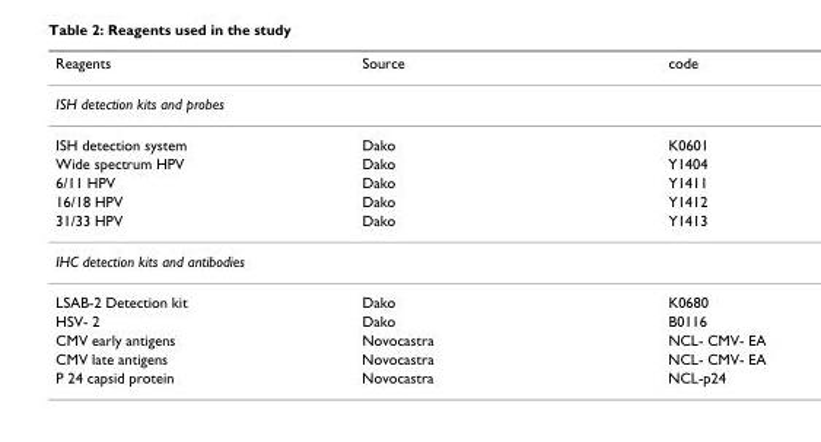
<table><thead><tr><td>Reagents</td><td>Source</td><td>code</td></tr></thead><tbody><tr><td colspan="3">ISH detection kits and probes</td></tr><tr><td>ISH detection system</td><td>Dako</td><td>K0601</td></tr><tr><td>Wide spectrum HPV</td><td>Dako</td><td>Y1404</td></tr><tr><td>6/11 HPV</td><td>Dako</td><td>Y1411</td></tr><tr><td>16/18 HPV</td><td>Dako</td><td>Y1412</td></tr><tr><td>31/33 HPV</td><td>Dako</td><td>Y1413</td></tr><tr><td colspan="3">IHC detection kits and antibodies</td></tr><tr><td>LSAB-2 Detection kit</td><td>Dako</td><td>K0680</td></tr><tr><td>HSV- 2</td><td>Dako</td><td>B0116</td></tr><tr><td>CMV early antigens</td><td>Novocastra</td><td>NCL- CMV- EA</td></tr><tr><td>CMV late antigens</td><td>Novocastra</td><td>NCL- CMV- EA</td></tr><tr><td>P 24 capsid protein</td><td>Novocastra</td><td>NCL-p24</td></tr></tbody></table>